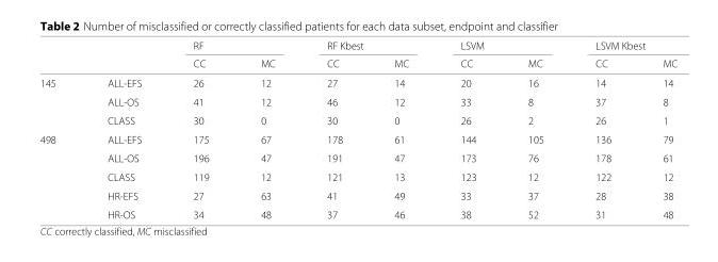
<table><thead><tr><td rowspan="2"></td><td rowspan="2"></td><td colspan="2">RF</td><td colspan="2">RF Kbest</td><td colspan="2">LSVM</td><td colspan="2">LSVM Kbest</td></tr><tr><td>CC</td><td>MC</td><td>CC</td><td>MC</td><td>CC</td><td>MC</td><td>CC</td><td>MC</td></tr></thead><tbody><tr><td rowspan="3">145</td><td>ALL-EFS</td><td>26</td><td>12</td><td>27</td><td>14</td><td>20</td><td>16</td><td>14</td><td>14</td></tr><tr><td>ALL-OS</td><td>41</td><td>12</td><td>46</td><td>12</td><td>33</td><td>8</td><td>37</td><td>8</td></tr><tr><td>CLASS</td><td>30</td><td>0</td><td>30</td><td>0</td><td>26</td><td>2</td><td>26</td><td>1</td></tr><tr><td rowspan="5">498</td><td>ALL-EFS</td><td>175</td><td>67</td><td>178</td><td>61</td><td>144</td><td>105</td><td>136</td><td>79</td></tr><tr><td>ALL-OS</td><td>196</td><td>47</td><td>191</td><td>47</td><td>173</td><td>76</td><td>178</td><td>61</td></tr><tr><td>CLASS</td><td>119</td><td>12</td><td>121</td><td>13</td><td>123</td><td>12</td><td>122</td><td>12</td></tr><tr><td>HR-EFS</td><td>27</td><td>63</td><td>41</td><td>49</td><td>33</td><td>37</td><td>28</td><td>38</td></tr><tr><td>HR-OS</td><td>34</td><td>48</td><td>37</td><td>46</td><td>38</td><td>52</td><td>31</td><td>48</td></tr></tbody></table>